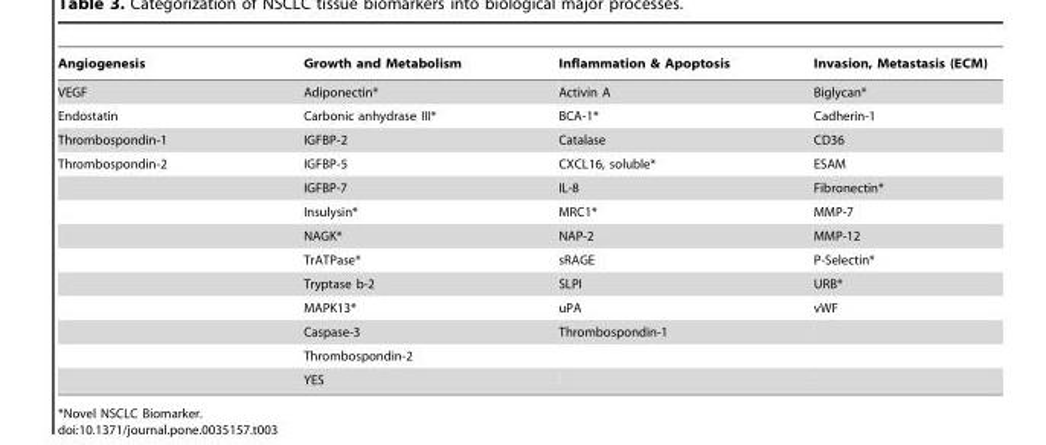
<table><thead><tr><td>Angiogenesis</td><td>Growth and Metabolism</td><td>Inflammation &amp; Apoptosis</td><td>Invasion, Metastasis (ECM)</td></tr></thead><tbody><tr><td>VEGF</td><td>Adiponectin*</td><td>Activin A</td><td>Biglycan*</td></tr><tr><td>Endostatin</td><td>Carbonic anhydrase III*</td><td>BCA-1*</td><td>Cadherin-1</td></tr><tr><td>Thrombospondin-1</td><td>IGFBP-2</td><td>Catalase</td><td>CD36</td></tr><tr><td rowspan="10">Thrombospondin-2</td><td>IGFBP-5</td><td>CXCL16, soluble*</td><td>ESAM</td></tr><tr><td>IGFBP-7</td><td>IL-8</td><td>Fibronectin*</td></tr><tr><td>Insulysin*</td><td>MRC1*</td><td>MMP-7</td></tr><tr><td>NAGK*</td><td>NAP-2</td><td>MMP-12</td></tr><tr><td>TrATPase*</td><td>sRAGE</td><td>P-Selectin*</td></tr><tr><td>Tryptase b-2</td><td>SLPI</td><td>URB*</td></tr><tr><td>MAPK13*</td><td>uPA</td><td>vWF</td></tr><tr><td>Caspase-3</td><td>Thrombospondin-1</td><td></td></tr><tr><td>Thrombospondin-2</td><td></td><td></td></tr><tr><td>YES</td><td></td><td></td></tr></tbody></table>